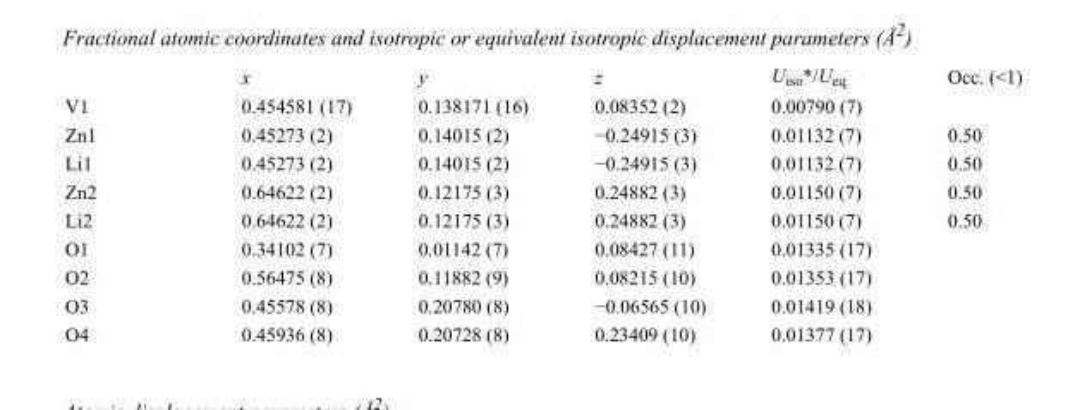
<table><thead><tr><td></td><td>x</td><td>y</td><td>z</td><td>U<sub>iso</sub>*/U<sub>eq</sub></td><td>Occ. (&lt;1)</td></tr></thead><tbody><tr><td>V1</td><td>0.454581 (17)</td><td>0.138171 (16)</td><td>0.08352 (2)</td><td>0.00790 (7)</td><td></td></tr><tr><td>Zn1</td><td>0.45273 (2)</td><td>0.14015 (2)</td><td>−0.24915 (3)</td><td>0.01132 (7)</td><td>0.50</td></tr><tr><td>Li1</td><td>0.45273 (2)</td><td>0.14015 (2)</td><td>−0.24915 (3)</td><td>0.01132 (7)</td><td>0.50</td></tr><tr><td>Zn2</td><td>0.64622 (2)</td><td>0.12175 (3)</td><td>0.24882 (3)</td><td>0.01150 (7)</td><td>0.50</td></tr><tr><td>Li2</td><td>0.64622 (2)</td><td>0.12175 (3)</td><td>0.24882 (3)</td><td>0.01150 (7)</td><td>0.50</td></tr><tr><td>O1</td><td>0.34102 (7)</td><td>0.01142 (7)</td><td>0.08427 (11)</td><td>0.01335 (17)</td><td></td></tr><tr><td>O2</td><td>0.56475 (8)</td><td>0.11882 (9)</td><td>0.08215 (10)</td><td>0.01353 (17)</td><td></td></tr><tr><td>O3</td><td>0.45578 (8)</td><td>0.20780 (8)</td><td>−0.06565 (10)</td><td>0.01419 (18)</td><td></td></tr><tr><td>O4</td><td>0.45936 (8)</td><td>0.20728 (8)</td><td>0.23409 (10)</td><td>0.01377 (17)</td><td></td></tr></tbody></table>